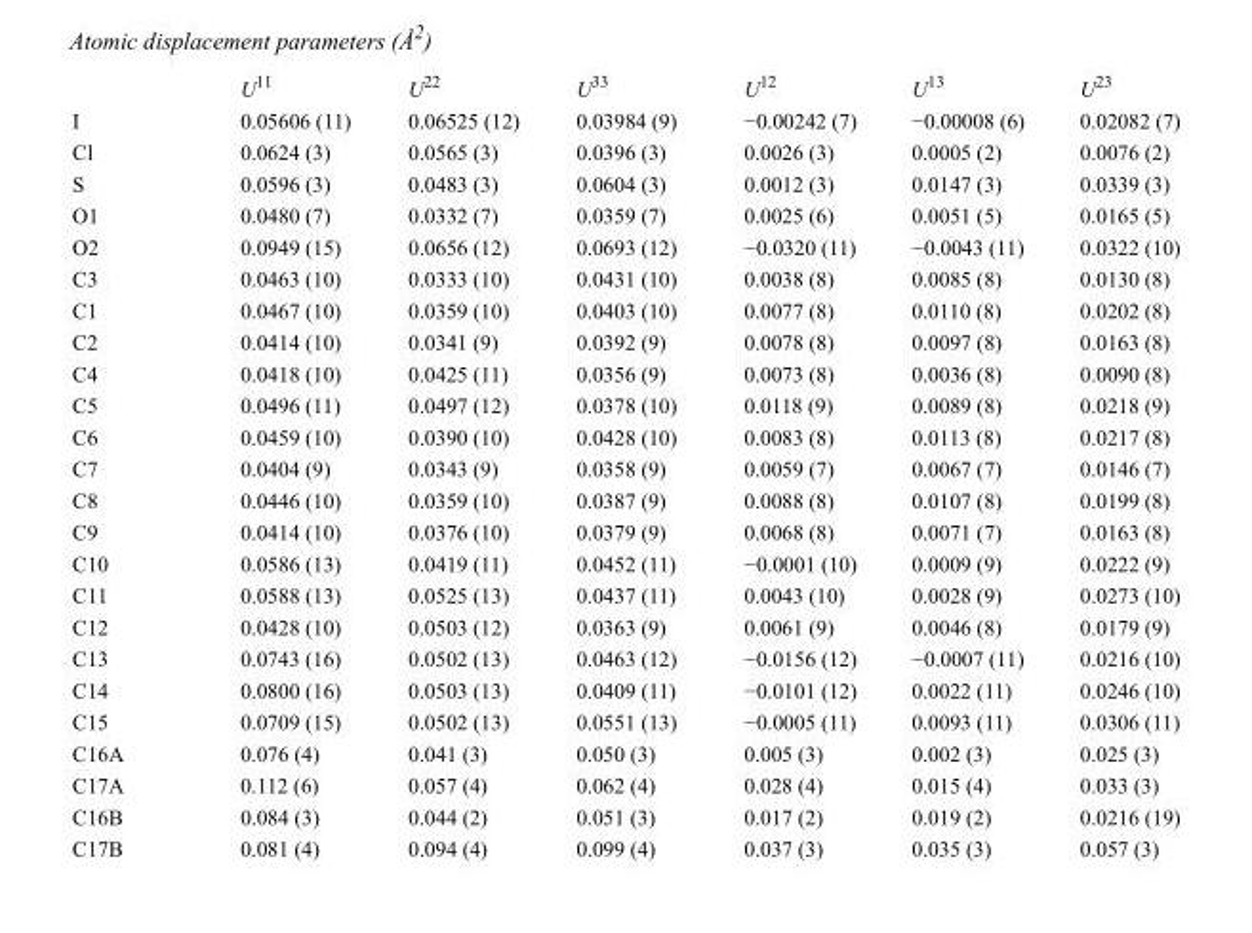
<table><thead><tr><td></td><td>U<sup>11</sup></td><td>U<sup>22</sup></td><td>U<sup>33</sup></td><td>U<sup>12</sup></td><td>U<sup>13</sup></td><td>U<sup>23</sup></td></tr></thead><tbody><tr><td>I</td><td>0.05606 (11)</td><td>0.06525 (12)</td><td>0.03984 (9)</td><td>−0.00242 (7)</td><td>−0.00008 (6)</td><td>0.02082 (7)</td></tr><tr><td>Cl</td><td>0.0624 (3)</td><td>0.0565 (3)</td><td>0.0396 (3)</td><td>0.0026 (3)</td><td>0.0005 (2)</td><td>0.0076 (2)</td></tr><tr><td>S</td><td>0.0596 (3)</td><td>0.0483 (3)</td><td>0.0604 (3)</td><td>0.0012 (3)</td><td>0.0147 (3)</td><td>0.0339 (3)</td></tr><tr><td>O1</td><td>0.0480 (7)</td><td>0.0332 (7)</td><td>0.0359 (7)</td><td>0.0025 (6)</td><td>0.0051 (5)</td><td>0.0165 (5)</td></tr><tr><td>O2</td><td>0.0949 (15)</td><td>0.0656 (12)</td><td>0.0693 (12)</td><td>−0.0320 (11)</td><td>−0.0043 (11)</td><td>0.0322 (10)</td></tr><tr><td>C3</td><td>0.0463 (10)</td><td>0.0333 (10)</td><td>0.0431 (10)</td><td>0.0038 (8)</td><td>0.0085 (8)</td><td>0.0130 (8)</td></tr><tr><td>C1</td><td>0.0467 (10)</td><td>0.0359 (10)</td><td>0.0403 (10)</td><td>0.0077 (8)</td><td>0.0110 (8)</td><td>0.0202 (8)</td></tr><tr><td>C2</td><td>0.0414 (10)</td><td>0.0341 (9)</td><td>0.0392 (9)</td><td>0.0078 (8)</td><td>0.0097 (8)</td><td>0.0163 (8)</td></tr><tr><td>C4</td><td>0.0418 (10)</td><td>0.0425 (11)</td><td>0.0356 (9)</td><td>0.0073 (8)</td><td>0.0036 (8)</td><td>0.0090 (8)</td></tr><tr><td>C5</td><td>0.0496 (11)</td><td>0.0497 (12)</td><td>0.0378 (10)</td><td>0.0118 (9)</td><td>0.0089 (8)</td><td>0.0218 (9)</td></tr><tr><td>C6</td><td>0.0459 (10)</td><td>0.0390 (10)</td><td>0.0428 (10)</td><td>0.0083 (8)</td><td>0.0113 (8)</td><td>0.0217 (8)</td></tr><tr><td>C7</td><td>0.0404 (9)</td><td>0.0343 (9)</td><td>0.0358 (9)</td><td>0.0059 (7)</td><td>0.0067 (7)</td><td>0.0146 (7)</td></tr><tr><td>C8</td><td>0.0446 (10)</td><td>0.0359 (10)</td><td>0.0387 (9)</td><td>0.0088 (8)</td><td>0.0107 (8)</td><td>0.0199 (8)</td></tr><tr><td>C9</td><td>0.0414 (10)</td><td>0.0376 (10)</td><td>0.0379 (9)</td><td>0.0068 (8)</td><td>0.0071 (7)</td><td>0.0163 (8)</td></tr><tr><td>C10</td><td>0.0586 (13)</td><td>0.0419 (11)</td><td>0.0452 (11)</td><td>−0.0001 (10)</td><td>0.0009 (9)</td><td>0.0222 (9)</td></tr><tr><td>C11</td><td>0.0588 (13)</td><td>0.0525 (13)</td><td>0.0437 (11)</td><td>0.0043 (10)</td><td>0.0028 (9)</td><td>0.0273 (10)</td></tr><tr><td>C12</td><td>0.0428 (10)</td><td>0.0503 (12)</td><td>0.0363 (9)</td><td>0.0061 (9)</td><td>0.0046 (8)</td><td>0.0179 (9)</td></tr><tr><td>C13</td><td>0.0743 (16)</td><td>0.0502 (13)</td><td>0.0463 (12)</td><td>−0.0156 (12)</td><td>−0.0007 (11)</td><td>0.0216 (10)</td></tr><tr><td>C14</td><td>0.0800 (16)</td><td>0.0503 (13)</td><td>0.0409 (11)</td><td>−0.0101 (12)</td><td>0.0022 (11)</td><td>0.0246 (10)</td></tr><tr><td>C15</td><td>0.0709 (15)</td><td>0.0502 (13)</td><td>0.0551 (13)</td><td>−0.0005 (11)</td><td>0.0093 (11)</td><td>0.0306 (11)</td></tr><tr><td>C16A</td><td>0.076 (4)</td><td>0.041 (3)</td><td>0.050 (3)</td><td>0.005 (3)</td><td>0.002 (3)</td><td>0.025 (3)</td></tr><tr><td>C17A</td><td>0.112 (6)</td><td>0.057 (4)</td><td>0.062 (4)</td><td>0.028 (4)</td><td>0.015 (4)</td><td>0.033 (3)</td></tr><tr><td>C16B</td><td>0.084 (3)</td><td>0.044 (2)</td><td>0.051 (3)</td><td>0.017 (2)</td><td>0.019 (2)</td><td>0.0216 (19)</td></tr><tr><td>C17B</td><td>0.081 (4)</td><td>0.094 (4)</td><td>0.099 (4)</td><td>0.037 (3)</td><td>0.035 (3)</td><td>0.057 (3)</td></tr></tbody></table>